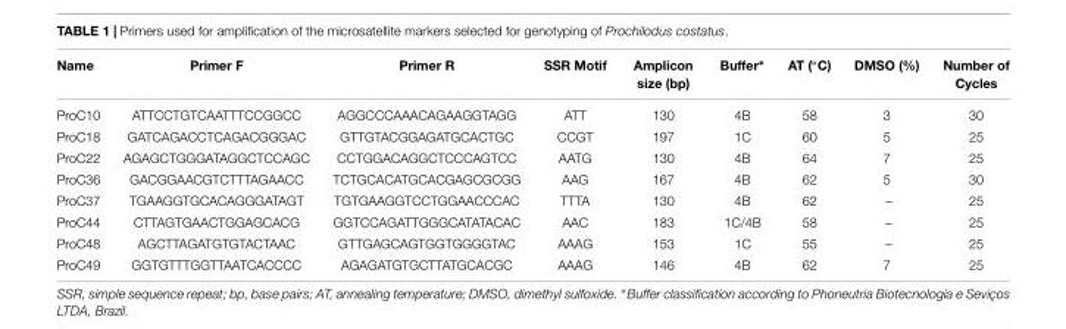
<table><thead><tr><td>Name</td><td>Primer F</td><td>Primer R</td><td>SSR Motif</td><td>Amplicon size (bp)</td><td>Buffer∗</td><td>AT (◦C)</td><td>DMSO (%)</td><td>Number of Cycles</td></tr></thead><tbody><tr><td>ProC10</td><td>ATTCCTGTCAATTTCCGGCC</td><td>AGGCCCAAACAGAAGGTAGG</td><td>ATT</td><td>130</td><td>4B</td><td>58</td><td>3</td><td>30</td></tr><tr><td>ProC18</td><td>GATCAGACCTCAGACGGGAC</td><td>GTTGTACGGAGATGCACTGC</td><td>CCGT</td><td>197</td><td>1C</td><td>60</td><td>5</td><td>25</td></tr><tr><td>ProC22</td><td>AGAGCTGGGATAGGCTCCAGC</td><td>CCTGGACAGGCTCCCAGTCC</td><td>AATG</td><td>130</td><td>4B</td><td>64</td><td>7</td><td>25</td></tr><tr><td>ProC36</td><td>GACGGAACGTCTTTAGAACC</td><td>TCTGCACATGCACGAGCGCGG</td><td>AAG</td><td>167</td><td>4B</td><td>62</td><td>5</td><td>30</td></tr><tr><td>ProC37</td><td>TGAAGGTGCACAGGGATAGT</td><td>TGTGAAGGTCCTGGAACCCAC</td><td>TTTA</td><td>130</td><td>4B</td><td>62</td><td>–</td><td>25</td></tr><tr><td>ProC44</td><td>CTTAGTGAACTGGAGCACG</td><td>GGTCCAGATTGGGCATATACAC</td><td>AAC</td><td>183</td><td>1C/4B</td><td>58</td><td>–</td><td>25</td></tr><tr><td>ProC48</td><td>AGCTTAGATGTGTACTAAC</td><td>GTTGAGCAGTGGTGGGGTAC</td><td>AAAG</td><td>153</td><td>1C</td><td>55</td><td>–</td><td>25</td></tr><tr><td>ProC49</td><td>GGTGTTTGGTTAATCACCCC</td><td>AGAGATGTGCTTATGCACGC</td><td>AAAG</td><td>146</td><td>4B</td><td>62</td><td>7</td><td>25</td></tr></tbody></table>